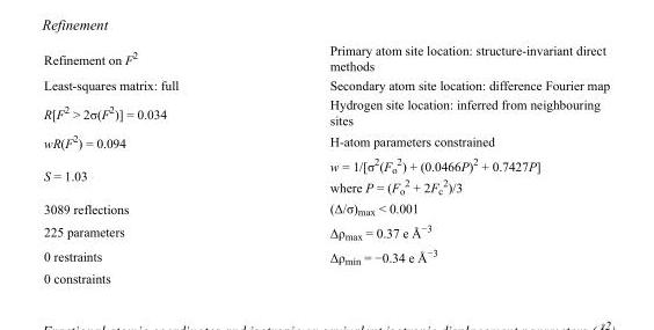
<table><tbody><tr><td>Refinement on F<sup>2</sup></td><td>Primary atom site location: structure-invariant direct methods</td></tr><tr><td>Least-squares matrix: full</td><td>Secondary atom site location: difference Fourier map</td></tr><tr><td>R[F<sup>2</sup> &gt; 2σ(F<sup>2</sup>)] = 0.034</td><td>Hydrogen site location: inferred from neighbouring sites</td></tr><tr><td>wR(F<sup>2</sup>) = 0.094</td><td>H-atom parameters constrained</td></tr><tr><td>S = 1.03</td><td>w = 1/[σ<sup>2</sup>(F<sub>o</sub> <sup>2</sup>) + (0.0466P)<sup>2</sup> + 0.7427P] where P = (F<sub>o</sub> <sup>2</sup> + 2F<sub>c</sub> <sup>2</sup>)/3</td></tr><tr><td>3089 reflections</td><td>(Δ/σ)<sub>max</sub> &lt; 0.001</td></tr><tr><td>225 parameters</td><td>Δρ<sub>max</sub> = 0.37 e Å<sup>−3</sup></td></tr><tr><td>0 restraints</td><td>Δρ<sub>min</sub> = −0.34 e Å<sup>−3</sup></td></tr><tr><td>0 constraints</td><td></td></tr></tbody></table>